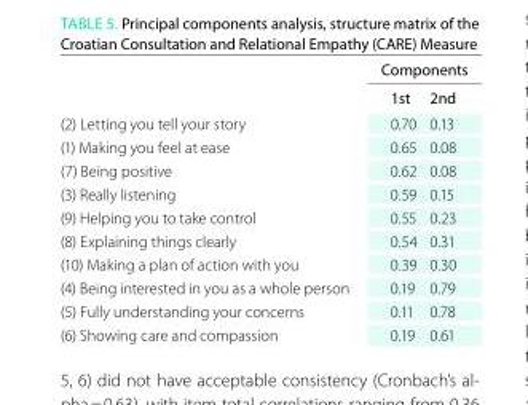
<table><thead><tr><td rowspan="2"></td><td colspan="2">Components</td></tr><tr><td>1st</td><td>2nd</td></tr></thead><tbody><tr><td>(2) Letting you tell your story</td><td>0.70</td><td>0.13</td></tr><tr><td>(1) Making you feel at ease</td><td>0.65</td><td>0.08</td></tr><tr><td>(7) Being positive</td><td>0.62</td><td>0.08</td></tr><tr><td>(3) Really listening</td><td>0.59</td><td>0.15</td></tr><tr><td>(9) Helping you to take control</td><td>0.55</td><td>0.23</td></tr><tr><td>(8) Explaining things clearly</td><td>0.54</td><td>0.31</td></tr><tr><td>(10) Making a plan of action with you</td><td>0.39</td><td>0.30</td></tr><tr><td>(4) Being interested in you as a whole person</td><td>0.19</td><td>0.79</td></tr><tr><td>(5) Fully understanding your concerns</td><td>0.11</td><td>0.78</td></tr><tr><td>(6) Showing care and compassion</td><td>0.19</td><td>0.61</td></tr></tbody></table>